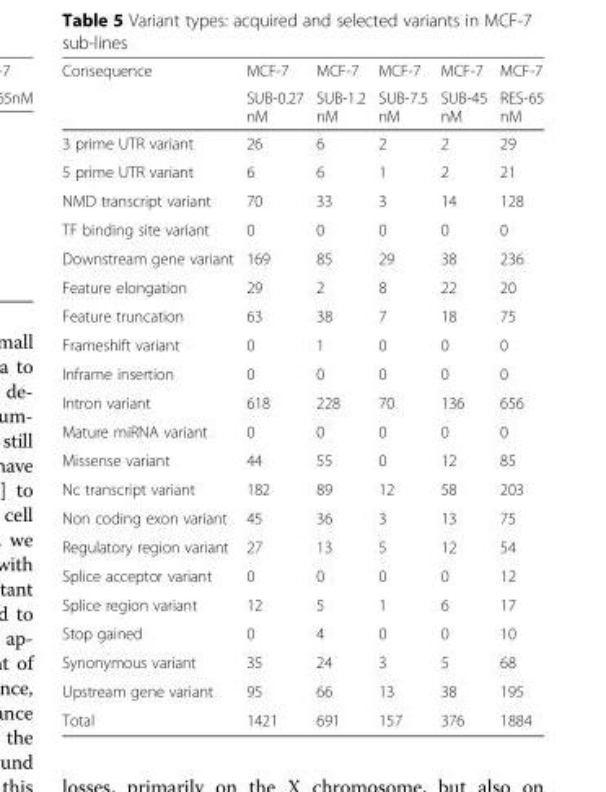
<table><thead><tr><td rowspan="2">Consequence</td><td rowspan="2">MCF-7 SUB-0.27 nM</td><td rowspan="2">MCF-7 SUB-1.2 nM</td><td rowspan="2">MCF-7 SUB-7.5 nM</td><td rowspan="2">MCF-7 SUB-45 nM</td><td rowspan="2">MCF-7 RES-65 nM</td></tr><tr></tr></thead><tbody><tr><td>3 prime UTR variant</td><td>26</td><td>6</td><td>2</td><td>2</td><td>29</td></tr><tr><td>5 prime UTR variant</td><td>6</td><td>6</td><td>1</td><td>2</td><td>21</td></tr><tr><td>NMD transcript variant</td><td>70</td><td>33</td><td>3</td><td>14</td><td>128</td></tr><tr><td>TF binding site variant</td><td>0</td><td>0</td><td>0</td><td>0</td><td>0</td></tr><tr><td>Downstream gene variant</td><td>169</td><td>85</td><td>29</td><td>38</td><td>236</td></tr><tr><td>Feature elongation</td><td>29</td><td>2</td><td>8</td><td>22</td><td>20</td></tr><tr><td>Feature truncation</td><td>63</td><td>38</td><td>7</td><td>18</td><td>75</td></tr><tr><td>Frameshift variant</td><td>0</td><td>1</td><td>0</td><td>0</td><td>0</td></tr><tr><td>Inframe insertion</td><td>0</td><td>0</td><td>0</td><td>0</td><td>0</td></tr><tr><td>Intron variant</td><td>618</td><td>228</td><td>70</td><td>136</td><td>656</td></tr><tr><td>Mature miRNA variant</td><td>0</td><td>0</td><td>0</td><td>0</td><td>0</td></tr><tr><td>Missense variant</td><td>44</td><td>55</td><td>0</td><td>12</td><td>85</td></tr><tr><td>Nc transcript variant</td><td>182</td><td>89</td><td>12</td><td>58</td><td>203</td></tr><tr><td>Non coding exon variant</td><td>45</td><td>36</td><td>3</td><td>13</td><td>75</td></tr><tr><td>Regulatory region variant</td><td>27</td><td>13</td><td>5</td><td>12</td><td>54</td></tr><tr><td>Splice acceptor variant</td><td>0</td><td>0</td><td>0</td><td>0</td><td>12</td></tr><tr><td>Splice region variant</td><td>12</td><td>5</td><td>1</td><td>6</td><td>17</td></tr><tr><td>Stop gained</td><td>0</td><td>4</td><td>0</td><td>0</td><td>10</td></tr><tr><td>Synonymous variant</td><td>35</td><td>24</td><td>3</td><td>5</td><td>68</td></tr><tr><td>Upstream gene variant</td><td>95</td><td>66</td><td>13</td><td>38</td><td>195</td></tr><tr><td>Total</td><td>1421</td><td>691</td><td>157</td><td>376</td><td>1884</td></tr></tbody></table>